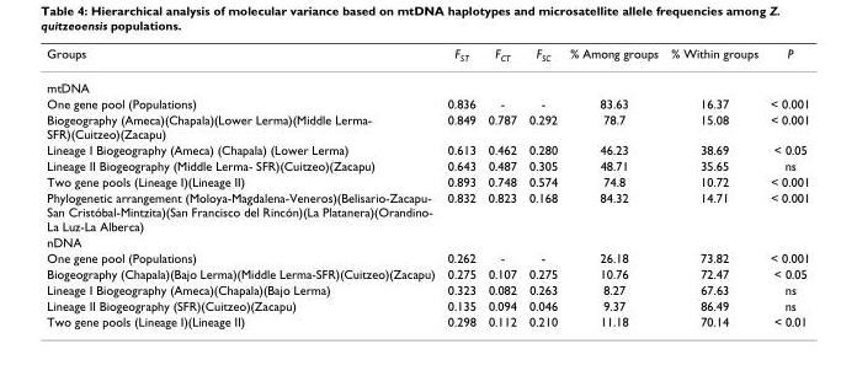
<table><thead><tr><td>Groups</td><td>F<sub>ST</sub></td><td>F<sub>CT</sub></td><td>F<sub>SC</sub></td><td>% Among groups</td><td>% Within groups</td><td>P</td></tr></thead><tbody><tr><td colspan="7">mtDNA</td></tr><tr><td>One gene pool (Populations)</td><td>0.836</td><td>-</td><td>-</td><td>83.63</td><td>16.37</td><td>&lt; 0.001</td></tr><tr><td>Biogeography (Ameca)(Chapala)(Lower Lerma)(Middle Lerma- SFR)(Cuitzeo)(Zacapu)</td><td>0.849</td><td>0.787</td><td>0.292</td><td>78.7</td><td>15.08</td><td>&lt; 0.001</td></tr><tr><td>Lineage I Biogeography (Ameca) (Chapala) (Lower Lerma)</td><td>0.613</td><td>0.462</td><td>0.280</td><td>46.23</td><td>38.69</td><td>&lt; 0.05</td></tr><tr><td>Lineage II Biogeography (Middle Lerma- SFR)(Cuitzeo)(Zacapu)</td><td>0.643</td><td>0.487</td><td>0.305</td><td>48.71</td><td>35.65</td><td>ns</td></tr><tr><td>Two gene pools (Lineage I)(Lineage II)</td><td>0.893</td><td>0.748</td><td>0.574</td><td>74.8</td><td>10.72</td><td>&lt; 0.001</td></tr><tr><td>Phylogenetic arrangement (Moloya-Magdalena-Veneros)(Belisario-Zacapu- San Cristóbal-Mintzita)(San Francisco del Rincón)(La Platanera)(Orandino- La Luz-La Alberca)</td><td>0.832</td><td>0.823</td><td>0.168</td><td>84.32</td><td>14.71</td><td>&lt; 0.001</td></tr><tr><td colspan="7">nDNA</td></tr><tr><td>One gene pool (Populations)</td><td>0.262</td><td>-</td><td>-</td><td>26.18</td><td>73.82</td><td>&lt; 0.001</td></tr><tr><td>Biogeography (Chapala)(Bajo Lerma)(Middle Lerma-SFR)(Cuitzeo)(Zacapu)</td><td>0.275</td><td>0.107</td><td>0.275</td><td>10.76</td><td>72.47</td><td>&lt; 0.05</td></tr><tr><td>Lineage I Biogeography (Ameca)(Chapala)(Bajo Lerma)</td><td>0.323</td><td>0.082</td><td>0.263</td><td>8.27</td><td>67.63</td><td>ns</td></tr><tr><td>Lineage II Biogeography (SFR)(Cuitzeo)(Zacapu)</td><td>0.135</td><td>0.094</td><td>0.046</td><td>9.37</td><td>86.49</td><td>ns</td></tr><tr><td>Two gene pools (Lineage I)(Lineage II)</td><td>0.298</td><td>0.112</td><td>0.210</td><td>11.18</td><td>70.14</td><td>&lt; 0.01</td></tr></tbody></table>